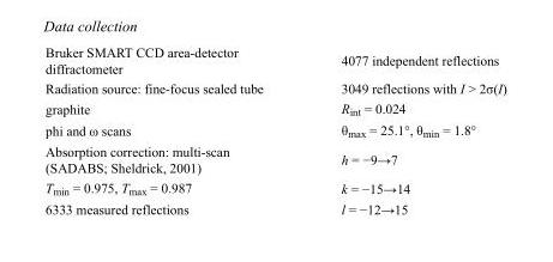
<table><tbody><tr><td>Bruker SMART CCD area-detector diffractometer</td><td>4077 independent reflections</td></tr><tr><td>Radiation source: fine-focus sealed tube</td><td>3049 reflections with I &gt; 2σ(I)</td></tr><tr><td>graphite</td><td>R<sub>int</sub> = 0.024</td></tr><tr><td>phi and ω scans</td><td>θ<sub>max</sub> = 25.1°, θ<sub>min</sub> = 1.8°</td></tr><tr><td>Absorption correction: multi-scan (SADABS; Sheldrick, 2001)</td><td>h = −9→7</td></tr><tr><td>T<sub>min</sub> = 0.975, T<sub>max</sub> = 0.987</td><td>k = −15→14</td></tr><tr><td>6333 measured reflections</td><td>l = −12→15</td></tr></tbody></table>